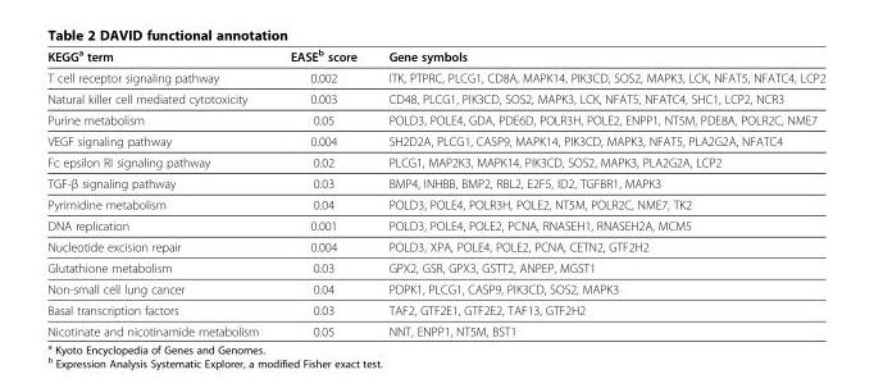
<table><thead><tr><td>KEGG<sup>a</sup> term</td><td>EASE<sup>b</sup> score</td><td>Gene symbols</td></tr></thead><tbody><tr><td>T cell receptor signaling pathway</td><td>0.002</td><td>ITK, PTPRC, PLCG1, CD8A, MAPK14, PIK3CD, SOS2, MAPK3, LCK, NFAT5, NFATC4, LCP2</td></tr><tr><td>Natural killer cell mediated cytotoxicity</td><td>0.003</td><td>CD48, PLCG1, PIK3CD, SOS2, MAPK3, LCK, NFAT5, NFATC4, SHC1, LCP2, NCR3</td></tr><tr><td>Purine metabolism</td><td>0.05</td><td>POLD3, POLE4, GDA, PDE6D, POLR3H, POLE2, ENPP1, NT5M, PDE8A, POLR2C, NME7</td></tr><tr><td>VEGF signaling pathway</td><td>0.004</td><td>SH2D2A, PLCG1, CASP9, MAPK14, PIK3CD, MAPK3, NFAT5, PLA2G2A, NFATC4</td></tr><tr><td>Fc epsilon RI signaling pathway</td><td>0.02</td><td>PLCG1, MAP2K3, MAPK14, PIK3CD, SOS2, MAPK3, PLA2G2A, LCP2</td></tr><tr><td>TGF-β signaling pathway</td><td>0.03</td><td>BMP4, INHBB, BMP2, RBL2, E2F5, ID2, TGFBR1, MAPK3</td></tr><tr><td>Pyrimidine metabolism</td><td>0.04</td><td>POLD3, POLE4, POLR3H, POLE2, NT5M, POLR2C, NME7, TK2</td></tr><tr><td>DNA replication</td><td>0.001</td><td>POLD3, POLE4, POLE2, PCNA, RNASEH1, RNASEH2A, MCM5</td></tr><tr><td>Nucleotide excision repair</td><td>0.004</td><td>POLD3, XPA, POLE4, POLE2, PCNA, CETN2, GTF2H2</td></tr><tr><td>Glutathione metabolism</td><td>0.03</td><td>GPX2, GSR, GPX3, GSTT2, ANPEP, MGST1</td></tr><tr><td>Non-small cell lung cancer</td><td>0.04</td><td>PDPK1, PLCG1, CASP9, PIK3CD, SOS2, MAPK3</td></tr><tr><td>Basal transcription factors</td><td>0.03</td><td>TAF2, GTF2E1, GTF2E2, TAF13, GTF2H2</td></tr><tr><td>Nicotinate and nicotinamide metabolism</td><td>0.05</td><td>NNT, ENPP1, NT5M, BST1</td></tr></tbody></table>